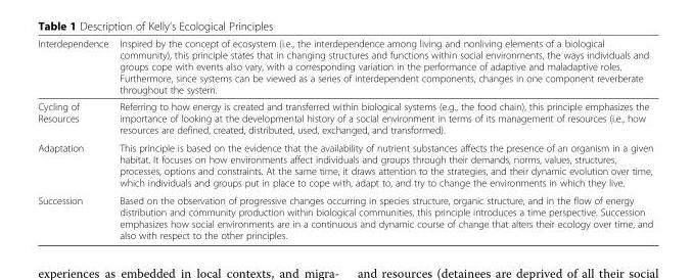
<table><thead><tr><td>Interdependence</td><td>Inspired by the concept of ecosystem (i.e., the interdependence among living and nonliving elements of a biological community), this principle states that in changing structures and functions within social environments, the ways individuals and groups cope with events also vary, with a corresponding variation in the performance of adaptive and maladaptive roles. Furthermore, since systems can be viewed as a series of interdependent components, changes in one component reverberate throughout the system.</td></tr></thead><tbody><tr><td>Cycling of Resources</td><td>Referring to how energy is created and transferred within biological systems (e.g., the food chain), this principle emphasizes the importance of looking at the developmental history of a social environment in terms of its management of resources (i.e., how resources are defined, created, distributed, used, exchanged, and transformed).</td></tr><tr><td>Adaptation</td><td>This principle is based on the evidence that the availability of nutrient substances affects the presence of an organism in a given habitat. It focuses on how environments affect individuals and groups through their demands, norms, values, structures, processes, options and constraints. At the same time, it draws attention to the strategies, and their dynamic evolution over time, which individuals and groups put in place to cope with, adapt to, and try to change the environments in which they live.</td></tr><tr><td>Succession</td><td>Based on the observation of progressive changes occurring in species structure, organic structure, and in the flow of energy distribution and community production within biological communities, this principle introduces a time perspective. Succession emphasizes how social environments are in a continuous and dynamic course of change that alters their ecology over time, and also with respect to the other principles.</td></tr></tbody></table>